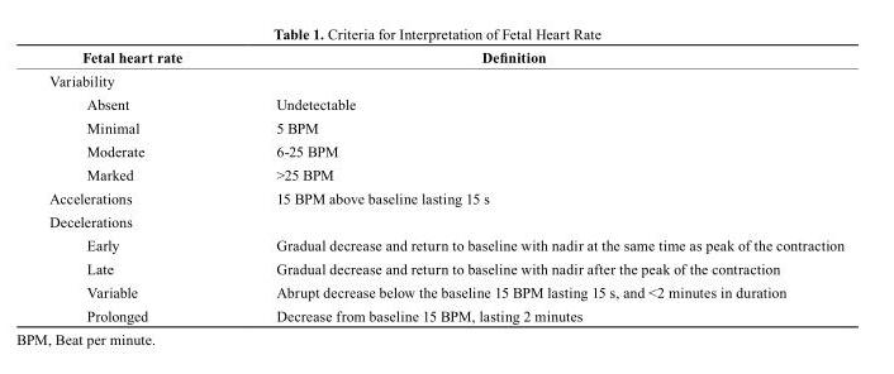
<table><thead><tr><td>Fetal heart rate</td><td>Definition</td></tr></thead><tbody><tr><td colspan="2">Variability</td></tr><tr><td>Absent</td><td>Undetectable</td></tr><tr><td>Minimal</td><td>5 BPM</td></tr><tr><td>Moderate</td><td>6-25 BPM</td></tr><tr><td>Marked</td><td>&gt;25 BPM</td></tr><tr><td>Accelerations</td><td>15 BPM above baseline lasting 15 s</td></tr><tr><td colspan="2">Decelerations</td></tr><tr><td>Early</td><td>Gradual decrease and return to baseline with nadir at the same time as peak of the contraction</td></tr><tr><td>Late</td><td>Gradual decrease and return to baseline with nadir after the peak of the contraction</td></tr><tr><td>Variable</td><td>Abrupt decrease below the baseline 15 BPM lasting 15 s, and &lt;2 minutes in duration</td></tr><tr><td>Prolonged</td><td>Decrease from baseline 15 BPM, lasting 2 minutes</td></tr></tbody></table>